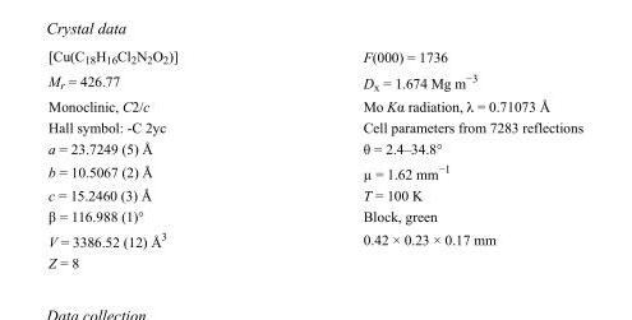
<table><tbody><tr><td>[Cu(C<sub>18</sub>H<sub>16</sub>Cl<sub>2</sub>N<sub>2</sub>O<sub>2</sub>)]</td><td>F(000) = 1736</td></tr><tr><td>M<sub>r</sub> = 426.77</td><td>D<sub>x</sub> = 1.674 Mg m<sup>−3</sup></td></tr><tr><td>Monoclinic, C2/c</td><td>Mo Kα radiation, λ = 0.71073 Å</td></tr><tr><td>Hall symbol: -C 2yc</td><td>Cell parameters from 7283 reflections</td></tr><tr><td>a = 23.7249 (5) Å</td><td>θ = 2.4–34.8°</td></tr><tr><td>b = 10.5067 (2) Å</td><td>µ = 1.62 mm<sup>−1</sup></td></tr><tr><td>c = 15.2460 (3) Å</td><td>T = 100 K</td></tr><tr><td>β = 116.988 (1)°</td><td>Block, green</td></tr><tr><td>V = 3386.52 (12) Å<sup>3</sup></td><td>0.42 × 0.23 × 0.17 mm</td></tr><tr><td>Z = 8</td><td></td></tr></tbody></table>